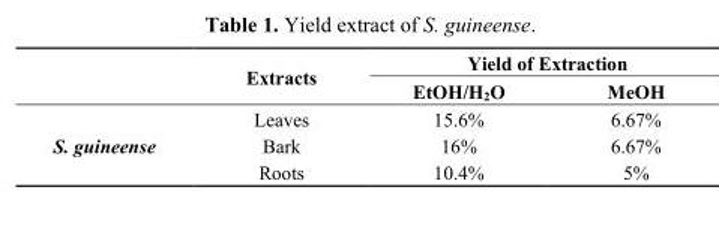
<table><thead><tr><td rowspan="2"></td><td rowspan="2">Extracts</td><td colspan="2">Yield of Extraction</td></tr><tr><td>EtOH/H<sub>2</sub>O</td><td>MeOH</td></tr></thead><tbody><tr><td rowspan="3">S. guineense</td><td>Leaves</td><td>15.6%</td><td>6.67%</td></tr><tr><td>Bark</td><td>16%</td><td>6.67%</td></tr><tr><td>Roots</td><td>10.4%</td><td>5%</td></tr></tbody></table>